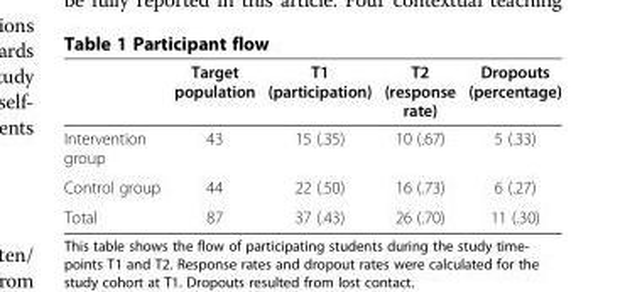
<table><thead><tr><td></td><td>Target population</td><td>T1 (participation)</td><td>T2 (response rate)</td><td>Dropouts (percentage)</td></tr></thead><tbody><tr><td>Intervention group</td><td>43</td><td>15 (.35)</td><td>10 (.67)</td><td>5 (.33)</td></tr><tr><td>Control group</td><td>44</td><td>22 (.50)</td><td>16 (.73)</td><td>6 (.27)</td></tr><tr><td>Total</td><td>87</td><td>37 (.43)</td><td>26 (.70)</td><td>11 (.30)</td></tr></tbody></table>